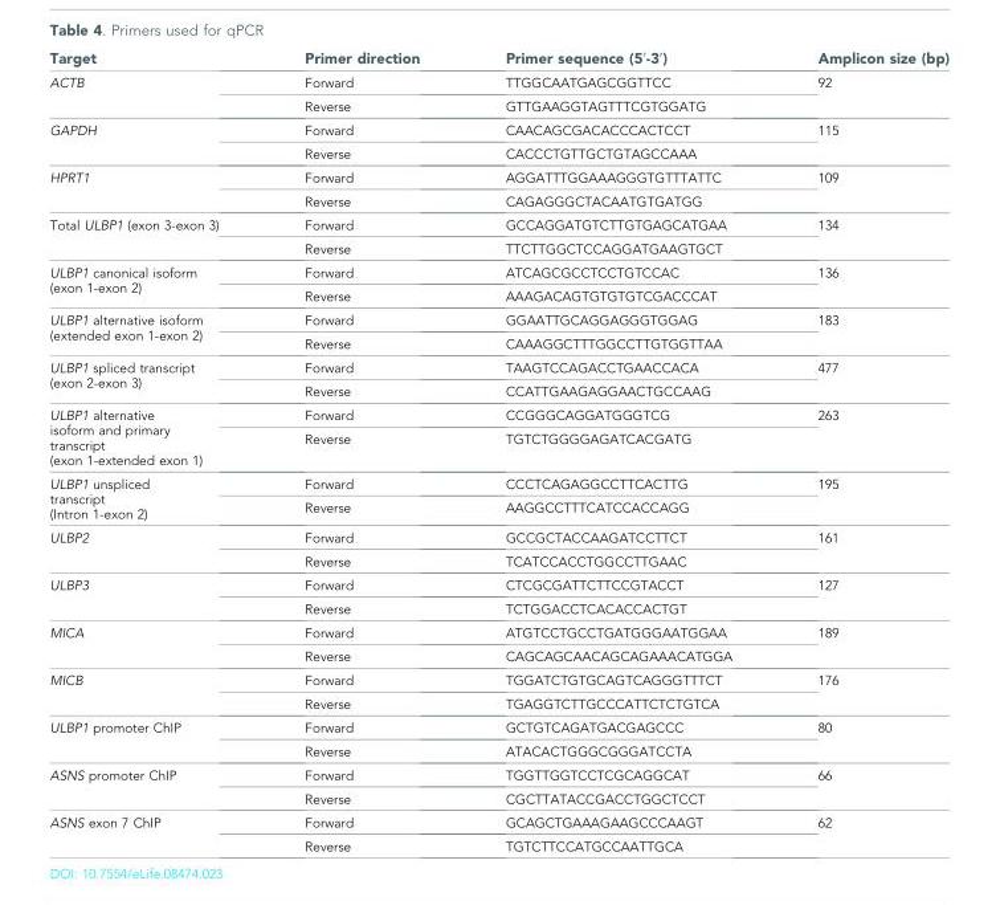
<table><thead><tr><td>Target</td><td>Primer direction</td><td>Primer sequence (5ʹ-3ʹ)</td><td>Amplicon size (bp)</td></tr></thead><tbody><tr><td rowspan="2">ACTB</td><td>Forward</td><td>TTGGCAATGAGCGGTTCC</td><td rowspan="2">92</td></tr><tr><td>Reverse</td><td>GTTGAAGGTAGTTTCGTGGATG</td></tr><tr><td rowspan="2">GAPDH</td><td>Forward</td><td>CAACAGCGACACCCACTCCT</td><td rowspan="2">115</td></tr><tr><td>Reverse</td><td>CACCCTGTTGCTGTAGCCAAA</td></tr><tr><td rowspan="2">HPRT1</td><td>Forward</td><td>AGGATTTGGAAAGGGTGTTTATTC</td><td rowspan="2">109</td></tr><tr><td>Reverse</td><td>CAGAGGGCTACAATGTGATGG</td></tr><tr><td rowspan="2">Total ULBP1 (exon 3-exon 3)</td><td>Forward</td><td>GCCAGGATGTCTTGTGAGCATGAA</td><td rowspan="2">134</td></tr><tr><td>Reverse</td><td>TTCTTGGCTCCAGGATGAAGTGCT</td></tr><tr><td rowspan="2">ULBP1 canonical isoform (exon 1-exon 2)</td><td>Forward</td><td>ATCAGCGCCTCCTGTCCAC</td><td rowspan="2">136</td></tr><tr><td>Reverse</td><td>AAAGACAGTGTGTGTCGACCCAT</td></tr><tr><td rowspan="2">ULBP1 alternative isoform (extended exon 1-exon 2)</td><td>Forward</td><td>GGAATTGCAGGAGGGTGGAG</td><td rowspan="2">183</td></tr><tr><td>Reverse</td><td>CAAAGGCTTTGGCCTTGTGGTTAA</td></tr><tr><td rowspan="2">ULBP1 spliced transcript (exon 2-exon 3)</td><td>Forward</td><td>TAAGTCCAGACCTGAACCACA</td><td rowspan="2">477</td></tr><tr><td>Reverse</td><td>CCATTGAAGAGGAACTGCCAAG</td></tr><tr><td rowspan="2">ULBP1 alternative isoform and primary transcript (exon 1-extended exon 1)</td><td>Forward</td><td>CCGGGCAGGATGGGTCG</td><td rowspan="2">263</td></tr><tr><td>Reverse</td><td>TGTCTGGGGAGATCACGATG</td></tr><tr><td rowspan="2">ULBP1 unspliced transcript (Intron 1-exon 2)</td><td>Forward</td><td>CCCTCAGAGGCCTTCACTTG</td><td rowspan="2">195</td></tr><tr><td>Reverse</td><td>AAGGCCTTTCATCCACCAGG</td></tr><tr><td rowspan="2">ULBP2</td><td>Forward</td><td>GCCGCTACCAAGATCCTTCT</td><td rowspan="2">161</td></tr><tr><td>Reverse</td><td>TCATCCACCTGGCCTTGAAC</td></tr><tr><td rowspan="2">ULBP3</td><td>Forward</td><td>CTCGCGATTCTTCCGTACCT</td><td rowspan="2">127</td></tr><tr><td>Reverse</td><td>TCTGGACCTCACACCACTGT</td></tr><tr><td rowspan="2">MICA</td><td>Forward</td><td>ATGTCCTGCCTGATGGGAATGGAA</td><td rowspan="2">189</td></tr><tr><td>Reverse</td><td>CAGCAGCAACAGCAGAAACATGGA</td></tr><tr><td rowspan="2">MICB</td><td>Forward</td><td>TGGATCTGTGCAGTCAGGGTTTCT</td><td rowspan="2">176</td></tr><tr><td>Reverse</td><td>TGAGGTCTTGCCCATTCTCTGTCA</td></tr><tr><td rowspan="2">ULBP1 promoter ChIP</td><td>Forward</td><td>GCTGTCAGATGACGAGCCC</td><td rowspan="2">80</td></tr><tr><td>Reverse</td><td>ATACACTGGGCGGGATCCTA</td></tr><tr><td rowspan="2">ASNS promoter ChIP</td><td>Forward</td><td>TGGTTGGTCCTCGCAGGCAT</td><td rowspan="2">66</td></tr><tr><td>Reverse</td><td>CGCTTATACCGACCTGGCTCCT</td></tr><tr><td rowspan="2">ASNS exon 7 ChIP</td><td>Forward</td><td>GCAGCTGAAAGAAGCCCAAGT</td><td rowspan="2">62</td></tr><tr><td>Reverse</td><td>TGTCTTCCATGCCAATTGCA</td></tr></tbody></table>